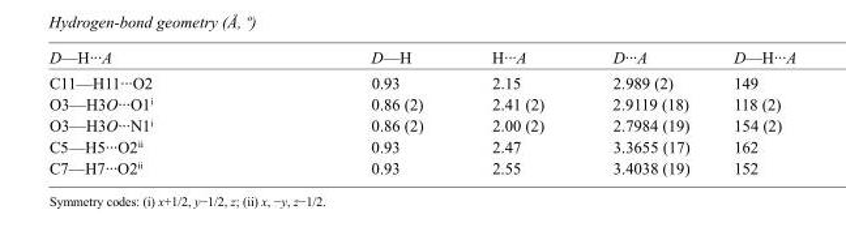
<table><tbody><tr><td>D—H···A</td><td>D—H</td><td>H···A</td><td>D···A</td><td>D—H···A</td></tr><tr><td>C11—H11···O2</td><td>0.93</td><td>2.15</td><td>2.989 (2)</td><td>149</td></tr><tr><td>O3—H3O···O1<sup>i</sup></td><td>0.86 (2)</td><td>2.41 (2)</td><td>2.9119 (18)</td><td>118 (2)</td></tr><tr><td>O3—H3O···N1<sup>i</sup></td><td>0.86 (2)</td><td>2.00 (2)</td><td>2.7984 (19)</td><td>154 (2)</td></tr><tr><td>C5—H5···O2<sup>ii</sup></td><td>0.93</td><td>2.47</td><td>3.3655 (17)</td><td>162</td></tr><tr><td>C7—H7···O2<sup>ii</sup></td><td>0.93</td><td>2.55</td><td>3.4038 (19)</td><td>152</td></tr></tbody></table>